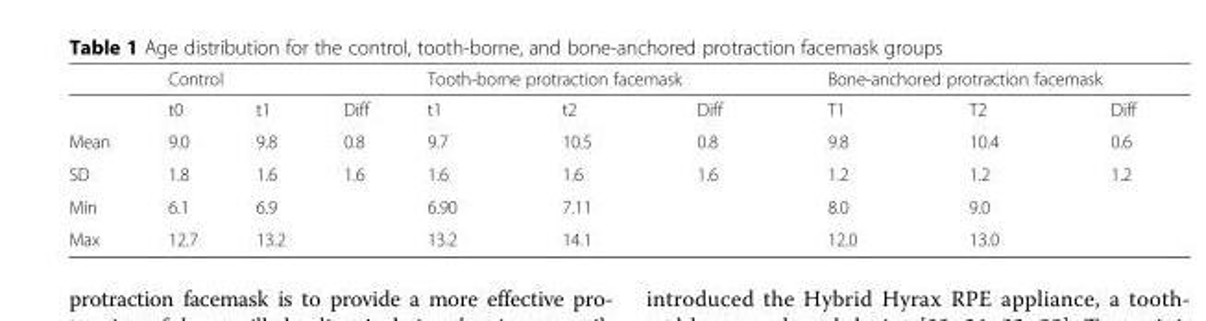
<table><thead><tr><td rowspan="2"></td><td colspan="3">Control</td><td colspan="3">Tooth-borne protraction facemask</td><td colspan="3">Bone-anchored protraction facemask</td></tr><tr><td>t0</td><td>t1</td><td>Diff</td><td>t1</td><td>t2</td><td>Diff</td><td>T1</td><td>T2</td><td>Diff</td></tr></thead><tbody><tr><td>Mean</td><td>9.0</td><td>9.8</td><td>0.8</td><td>9.7</td><td>10.5</td><td>0.8</td><td>9.8</td><td>10.4</td><td>0.6</td></tr><tr><td>SD</td><td>1.8</td><td>1.6</td><td>1.6</td><td>1.6</td><td>1.6</td><td>1.6</td><td>1.2</td><td>1.2</td><td>1.2</td></tr><tr><td>Min</td><td>6.1</td><td>6.9</td><td></td><td>6.90</td><td>7.11</td><td></td><td>8.0</td><td>9.0</td><td></td></tr><tr><td>Max</td><td>12.7</td><td>13.2</td><td></td><td>13.2</td><td>14.1</td><td></td><td>12.0</td><td>13.0</td><td></td></tr></tbody></table>